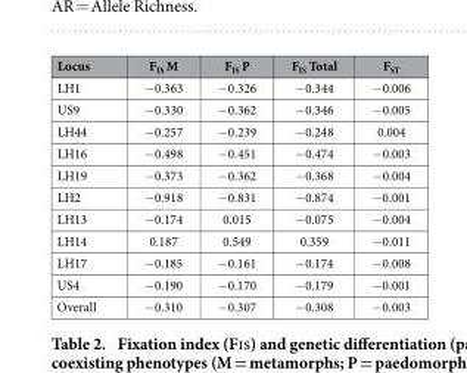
<table><thead><tr><td>Locus</td><td>F<sub>IS</sub> M</td><td>F<sub>IS</sub> P</td><td>F<sub>IS</sub> Total</td><td>F<sub>ST</sub></td></tr></thead><tbody><tr><td>LH1</td><td>− 0.363</td><td>− 0.326</td><td>− 0.344</td><td>− 0.006</td></tr><tr><td>US9</td><td>− 0.330</td><td>− 0.362</td><td>− 0.346</td><td>− 0.005</td></tr><tr><td>LH44</td><td>− 0.257</td><td>− 0.239</td><td>− 0.248</td><td>0.004</td></tr><tr><td>LH16</td><td>− 0.498</td><td>− 0.451</td><td>− 0.474</td><td>− 0.003</td></tr><tr><td>LH19</td><td>− 0.373</td><td>− 0.362</td><td>− 0.368</td><td>− 0.004</td></tr><tr><td>LH2</td><td>− 0.918</td><td>− 0.831</td><td>− 0.874</td><td>− 0.001</td></tr><tr><td>LH13</td><td>− 0.174</td><td>0.015</td><td>− 0.075</td><td>− 0.004</td></tr><tr><td>LH14</td><td>0.187</td><td>0.549</td><td>0.359</td><td>− 0.011</td></tr><tr><td>LH17</td><td>− 0.185</td><td>− 0.161</td><td>− 0.174</td><td>− 0.008</td></tr><tr><td>US4</td><td>− 0.190</td><td>− 0.170</td><td>− 0.179</td><td>− 0.001</td></tr><tr><td>Overall</td><td>− 0.310</td><td>− 0.307</td><td>− 0.308</td><td>− 0.003</td></tr></tbody></table>